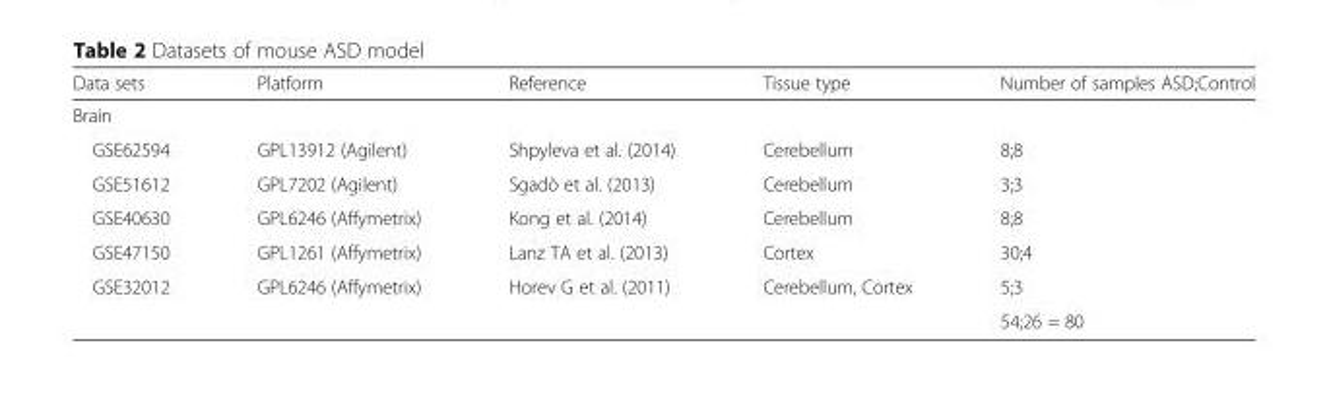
<table><thead><tr><td>Data sets</td><td>Platform</td><td>Reference</td><td>Tissue type</td><td>Number of samples ASD;Control</td></tr></thead><tbody><tr><td colspan="5">Brain</td></tr><tr><td>GSE62594</td><td>GPL13912 (Agilent)</td><td>Shpyleva et al. (2014)</td><td>Cerebellum</td><td>8;8</td></tr><tr><td>GSE51612</td><td>GPL7202 (Agilent)</td><td>Sgadò et al. (2013)</td><td>Cerebellum</td><td>3;3</td></tr><tr><td>GSE40630</td><td>GPL6246 (Affymetrix)</td><td>Kong et al. (2014)</td><td>Cerebellum</td><td>8;8</td></tr><tr><td>GSE47150</td><td>GPL1261 (Affymetrix)</td><td>Lanz TA et al. (2013)</td><td>Cortex</td><td>30;4</td></tr><tr><td rowspan="2">GSE32012</td><td>GPL6246 (Affymetrix)</td><td>Horev G et al. (2011)</td><td>Cerebellum, Cortex</td><td>5;3</td></tr><tr><td></td><td></td><td></td><td>54;26 = 80</td></tr></tbody></table>